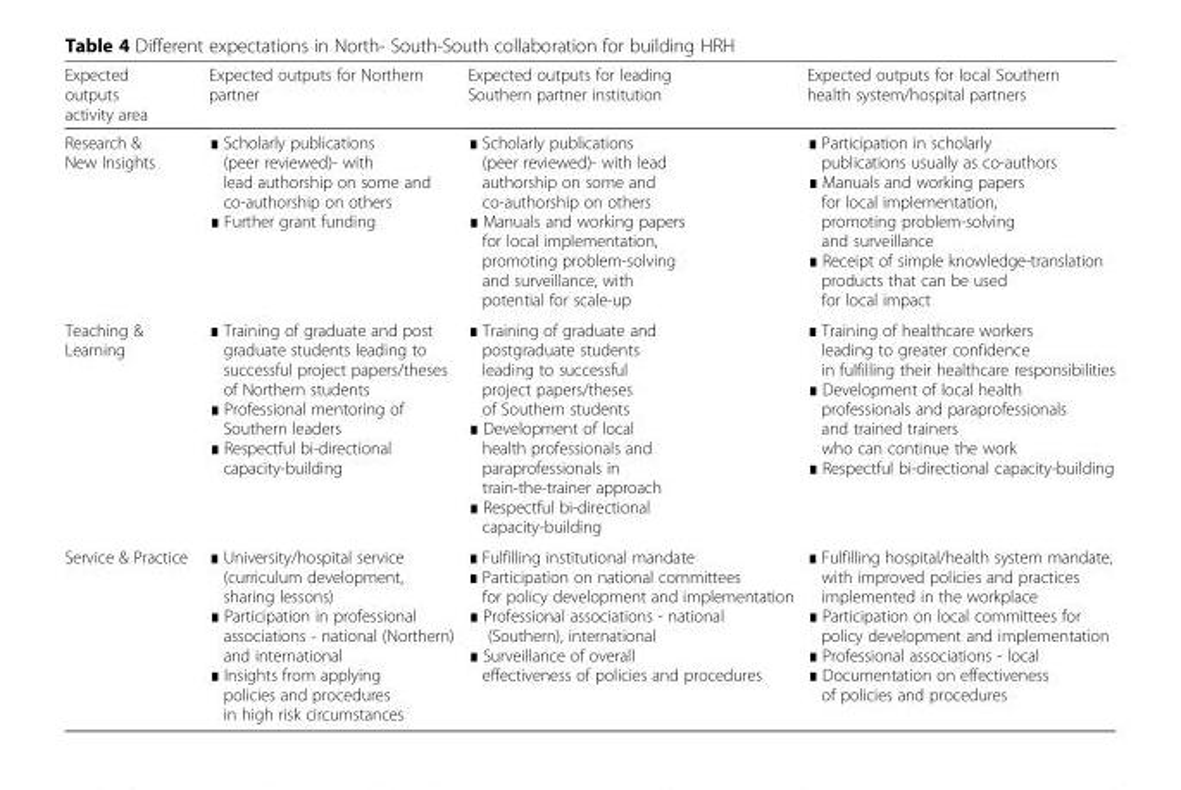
<table><thead><tr><td>Expected outputs activity area</td><td>Expected outputs for Northern partner</td><td>Expected outputs for leading Southern partner institution</td><td>Expected outputs for local Southern health system/hospital partners</td></tr></thead><tbody><tr><td>Research &amp; New Insights</td><td>∎ Scholarly publications (peer reviewed)- with lead authorship on some and co-authorship on others ∎ Further grant funding</td><td>∎ Scholarly publications (peer reviewed)- with lead authorship on some and co-authorship on others ∎ Manuals and working papers for local implementation, promoting problem-solving and surveillance, with potential for scale-up</td><td>∎ Participation in scholarly publications usually as co-authors ∎ Manuals and working papers for local implementation, promoting problem-solving and surveillance ∎ Receipt of simple knowledge-translation products that can be used for local impact</td></tr><tr><td>Teaching &amp; Learning</td><td>∎ Training of graduate and post graduate students leading to successful project papers/theses of Northern students ∎ Professional mentoring of Southern leaders ∎ Respectful bi-directional capacity-building</td><td>∎ Training of graduate and postgraduate students leading to successful project papers/theses of Southern students ∎ Development of local health professionals and paraprofessionals in train-the-trainer approach ∎ Respectful bi-directional capacity-building</td><td>∎ Training of healthcare workers leading to greater confidence in fulfilling their healthcare responsibilities ∎ Development of local health professionals and paraprofessionals and trained trainers who can continue the work ∎ Respectful bi-directional capacity-building</td></tr><tr><td>Service &amp; Practice</td><td>∎ University/hospital service (curriculum development, sharing lessons) ∎ Participation in professional associations - national (Northern) and international ∎ Insights from applying policies and procedures in high risk circumstances</td><td>∎ Fulfilling institutional mandate ∎ Participation on national committees for policy development and implementation ∎ Professional associations - national (Southern), international ∎ Surveillance of overall effectiveness of policies and procedures</td><td>∎ Fulfilling hospital/health system mandate, with improved policies and practices implemented in the workplace ∎ Participation on local committees for policy development and implementation ∎ Professional associations - local ∎ Documentation on effectiveness of policies and procedures</td></tr></tbody></table>